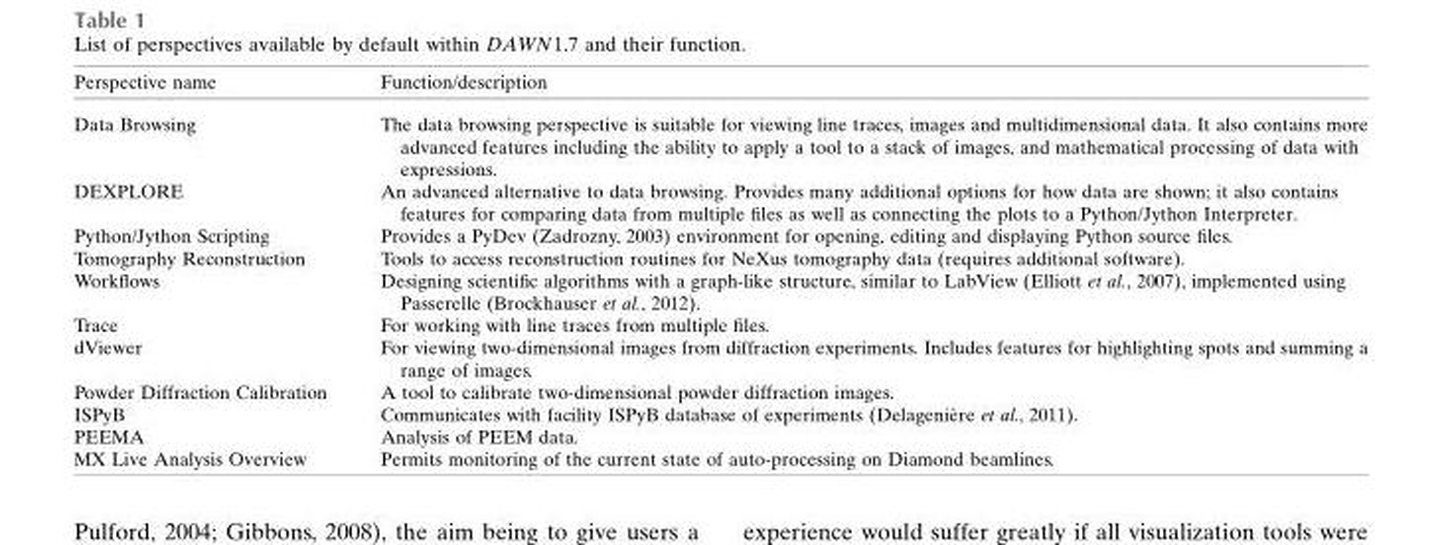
<table><thead><tr><td>Perspective name</td><td>Function/description</td></tr></thead><tbody><tr><td>Data Browsing</td><td>The data browsing perspective is suitable for viewing line traces, images and multidimensional data. It also contains more advanced features including the ability to apply a tool to a stack of images, and mathematical processing of data with expressions.</td></tr><tr><td>DEXPLORE</td><td>An advanced alternative to data browsing. Provides many additional options for how data are shown; it also contains features for comparing data from multiple files as well as connecting the plots to a Python/Jython Interpreter.</td></tr><tr><td>Python/Jython Scripting</td><td>Provides a PyDev (Zadrozny, 2003) environment for opening, editing and displaying Python source files.</td></tr><tr><td>Tomography Reconstruction</td><td>Tools to access reconstruction routines for NeXus tomography data (requires additional software).</td></tr><tr><td>Workflows</td><td>Designing scientific algorithms with a graph-like structure, similar to LabView (Elliott et al., 2007), implemented using Passerelle (Brockhauser et al., 2012).</td></tr><tr><td>Trace</td><td>For working with line traces from multiple files.</td></tr><tr><td>dViewer</td><td>For viewing two-dimensional images from diffraction experiments. Includes features for highlighting spots and summing a range of images.</td></tr><tr><td>Powder Diffraction Calibration</td><td>A tool to calibrate two-dimensional powder diffraction images.</td></tr><tr><td>ISPyB</td><td>Communicates with facility ISPyB database of experiments (Delagenie`re et al., 2011).</td></tr><tr><td>PEEMA</td><td>Analysis of PEEM data.</td></tr><tr><td>MX Live Analysis Overview</td><td>Permits monitoring of the current state of auto-processing on Diamond beamlines.</td></tr></tbody></table>